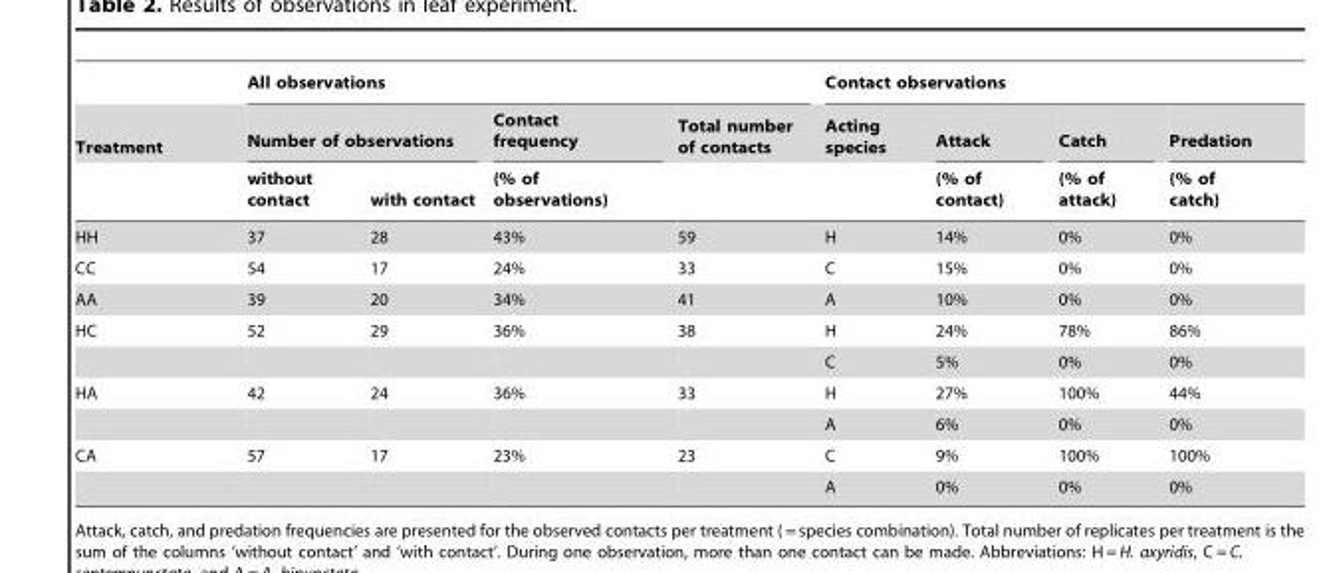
<table><thead><tr><td rowspan="3">Treatment</td><td colspan="4">All observations</td><td colspan="4">Contact observations</td></tr><tr><td colspan="2">Number of observations</td><td rowspan="2">Contact frequency (% of observations)</td><td rowspan="2">Total number of contacts</td><td rowspan="2">Acting species</td><td rowspan="2">Attack (% of contact)</td><td rowspan="2">Catch (% of attack)</td><td rowspan="2">Predation (% of catch)</td></tr><tr><td>without contact</td><td>with contact</td></tr></thead><tbody><tr><td>HH</td><td>37</td><td>28</td><td>43%</td><td>59</td><td>H</td><td>14%</td><td>0%</td><td>0%</td></tr><tr><td>CC</td><td>54</td><td>17</td><td>24%</td><td>33</td><td>C</td><td>15%</td><td>0%</td><td>0%</td></tr><tr><td>AA</td><td>39</td><td>20</td><td>34%</td><td>41</td><td>A</td><td>10%</td><td>0%</td><td>0%</td></tr><tr><td rowspan="2">HC</td><td>52</td><td>29</td><td>36%</td><td>38</td><td>H</td><td>24%</td><td>78%</td><td>86%</td></tr><tr><td></td><td></td><td></td><td></td><td>C</td><td>5%</td><td>0%</td><td>0%</td></tr><tr><td rowspan="2">HA</td><td>42</td><td>24</td><td>36%</td><td>33</td><td>H</td><td>27%</td><td>100%</td><td>44%</td></tr><tr><td></td><td></td><td></td><td></td><td>A</td><td>6%</td><td>0%</td><td>0%</td></tr><tr><td rowspan="2">CA</td><td>57</td><td>17</td><td>23%</td><td>23</td><td>C</td><td>9%</td><td>100%</td><td>100%</td></tr><tr><td></td><td></td><td></td><td></td><td>A</td><td>0%</td><td>0%</td><td>0%</td></tr></tbody></table>